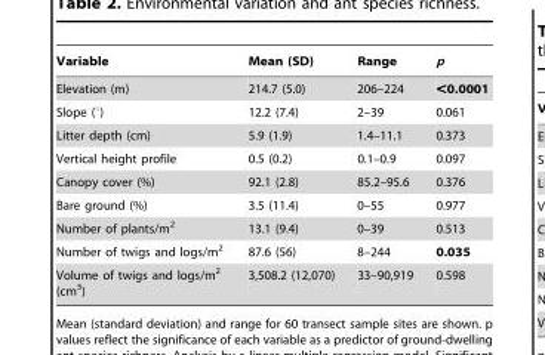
<table><thead><tr><td>Variable</td><td>Mean (SD)</td><td>Range</td><td>p</td></tr></thead><tbody><tr><td>Elevation (m)</td><td>214.7 (5.0)</td><td>206–224</td><td>&lt;0.0001</td></tr><tr><td>Slope (°)</td><td>12.2 (7.4)</td><td>2–39</td><td>0.061</td></tr><tr><td>Litter depth (cm)</td><td>5.9 (1.9)</td><td>1.4–11.1</td><td>0.373</td></tr><tr><td>Vertical height profile</td><td>0.5 (0.2)</td><td>0.1–0.9</td><td>0.097</td></tr><tr><td>Canopy cover (%)</td><td>92.1 (2.8)</td><td>85.2–95.6</td><td>0.376</td></tr><tr><td>Bare ground (%)</td><td>3.5 (11.4)</td><td>0–55</td><td>0.977</td></tr><tr><td>Number of plants/m<sup>2</sup></td><td>13.1 (9.4)</td><td>0–39</td><td>0.513</td></tr><tr><td>Number of twigs and logs/m<sup>2</sup></td><td>87.6 (56)</td><td>8–244</td><td>0.035</td></tr><tr><td>Volume of twigs and logs/m<sup>2</sup> (cm<sup>3</sup>)</td><td>3,508.2 (12,070)</td><td>33–90,919</td><td>0.598</td></tr></tbody></table>